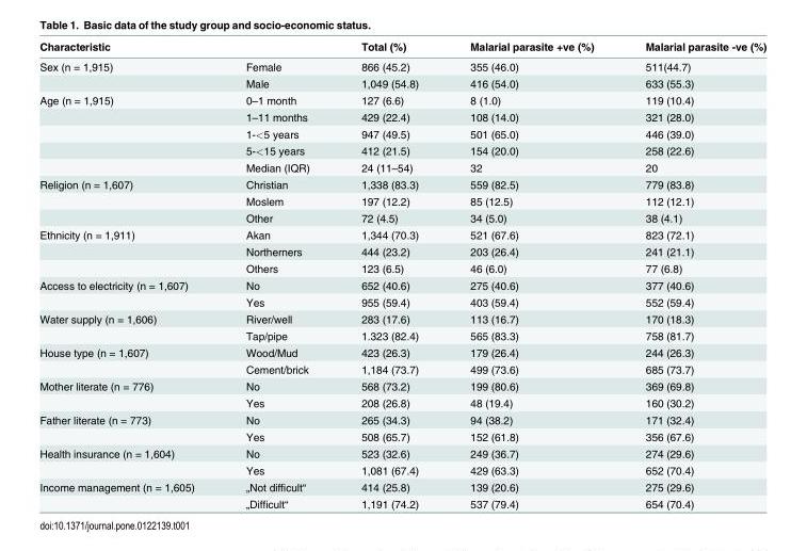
<table><thead><tr><td>Characteristic</td><td></td><td>Total (%)</td><td>Malarial parasite +ve (%)</td><td>Malarial parasite -ve (%)</td></tr></thead><tbody><tr><td rowspan="2">Sex (n = 1,915)</td><td>Female</td><td>866 (45.2)</td><td>355 (46.0)</td><td>511(44.7)</td></tr><tr><td>Male</td><td>1,049 (54.8)</td><td>416 (54.0)</td><td>633 (55.3)</td></tr><tr><td rowspan="5">Age (n = 1,915)</td><td>0–1 month</td><td>127 (6.6)</td><td>8 (1.0)</td><td>119 (10.4)</td></tr><tr><td>1–11 months</td><td>429 (22.4)</td><td>108 (14.0)</td><td>321 (28.0)</td></tr><tr><td>1-&lt;5 years</td><td>947 (49.5)</td><td>501 (65.0)</td><td>446 (39.0)</td></tr><tr><td>5-&lt;15 years</td><td>412 (21.5)</td><td>154 (20.0)</td><td>258 (22.6)</td></tr><tr><td>Median (IQR)</td><td>24 (11–54)</td><td>32</td><td>20</td></tr><tr><td rowspan="3">Religion (n = 1,607)</td><td>Christian</td><td>1,338 (83.3)</td><td>559 (82.5)</td><td>779 (83.8)</td></tr><tr><td>Moslem</td><td>197 (12.2)</td><td>85 (12.5)</td><td>112 (12.1)</td></tr><tr><td>Other</td><td>72 (4.5)</td><td>34 (5.0)</td><td>38 (4.1)</td></tr><tr><td rowspan="3">Ethnicity (n = 1,911)</td><td>Akan</td><td>1,344 (70.3)</td><td>521 (67.6)</td><td>823 (72.1)</td></tr><tr><td>Northerners</td><td>444 (23.2)</td><td>203 (26.4)</td><td>241 (21.1)</td></tr><tr><td>Others</td><td>123 (6.5)</td><td>46 (6.0)</td><td>77 (6.8)</td></tr><tr><td rowspan="2">Access to electricity (n = 1,607)</td><td>No</td><td>652 (40.6)</td><td>275 (40.6)</td><td>377 (40.6)</td></tr><tr><td>Yes</td><td>955 (59.4)</td><td>403 (59.4)</td><td>552 (59.4)</td></tr><tr><td rowspan="2">Water supply (n = 1,606)</td><td>River/well</td><td>283 (17.6)</td><td>113 (16.7)</td><td>170 (18.3)</td></tr><tr><td>Tap/pipe</td><td>1.323 (82.4)</td><td>565 (83.3)</td><td>758 (81.7)</td></tr><tr><td rowspan="2">House type (n = 1,607)</td><td>Wood/Mud</td><td>423 (26.3)</td><td>179 (26.4)</td><td>244 (26.3)</td></tr><tr><td>Cement/brick</td><td>1,184 (73.7)</td><td>499 (73.6)</td><td>685 (73.7)</td></tr><tr><td rowspan="2">Mother literate (n = 776)</td><td>No</td><td>568 (73.2)</td><td>199 (80.6)</td><td>369 (69.8)</td></tr><tr><td>Yes</td><td>208 (26.8)</td><td>48 (19.4)</td><td>160 (30.2)</td></tr><tr><td rowspan="2">Father literate (n = 773)</td><td>No</td><td>265 (34.3)</td><td>94 (38.2)</td><td>171 (32.4)</td></tr><tr><td>Yes</td><td>508 (65.7)</td><td>152 (61.8)</td><td>356 (67.6)</td></tr><tr><td rowspan="2">Health insurance (n = 1,604)</td><td>No</td><td>523 (32.6)</td><td>249 (36.7)</td><td>274 (29.6)</td></tr><tr><td>Yes</td><td>1,081 (67.4)</td><td>429 (63.3)</td><td>652 (70.4)</td></tr><tr><td rowspan="2">Income management (n = 1,605)</td><td>„Not difficult“</td><td>414 (25.8)</td><td>139 (20.6)</td><td>275 (29.6)</td></tr><tr><td>„Difficult“</td><td>1,191 (74.2)</td><td>537 (79.4)</td><td>654 (70.4)</td></tr></tbody></table>